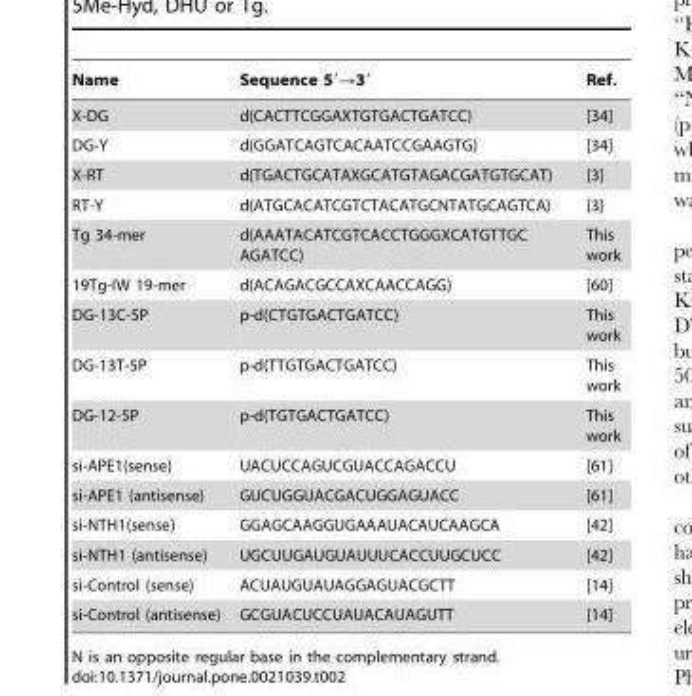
<table><thead><tr><td>Name</td><td>Sequence 5′→3′</td><td>Ref.</td></tr></thead><tbody><tr><td>X-DG</td><td>d(CACTTCGGAXTGTGACTGATCC)</td><td>[34]</td></tr><tr><td>DG-Y</td><td>d(GGATCAGTCACAATCCGAAGTG)</td><td>[34]</td></tr><tr><td>X-RT</td><td>d(TGACTGCATAXGCATGTAGACGATGTGCAT)</td><td>[3]</td></tr><tr><td>RT-Y</td><td>d(ATGCACATCGTCTACATGCNTATGCAGTCA)</td><td>[3]</td></tr><tr><td>Tg 34-mer</td><td>d(AAATACATCGTCACCTGGGXCATGTTGC AGATCC)</td><td>This work</td></tr><tr><td>19Tg-IW 19-mer</td><td>d(ACAGACGCCAXCAACCAGG)</td><td>[60]</td></tr><tr><td>DG-13C-5P</td><td>p-d(CTGTGACTGATCC)</td><td>This work</td></tr><tr><td>DG-13T-5P</td><td>p-d(TTGTGACTGATCC)</td><td>This work</td></tr><tr><td>DG-12-5P</td><td>p-d(TGTGACTGATCC)</td><td>This work</td></tr><tr><td>si-APE1(sense)</td><td>UACUCCAGUCGUACCAGACCU</td><td>[61]</td></tr><tr><td>si-APE1 (antisense)</td><td>GUCUGGUACGACUGGAGUACC</td><td>[61]</td></tr><tr><td>si-NTH1(sense)</td><td>GGAGCAAGGUGAAAUACAUCAAGCA</td><td>[42]</td></tr><tr><td>si-NTH1 (antisense)</td><td>UGCUUGAUGUAUUUCACCUUGCUCC</td><td>[42]</td></tr><tr><td>si-Control (sense)</td><td>ACUAUGUAUAGGAGUACGCTT</td><td>[14]</td></tr><tr><td>si-Control (antisense)</td><td>GCGUACUCCUAUACAUAGUTT</td><td>[14]</td></tr></tbody></table>